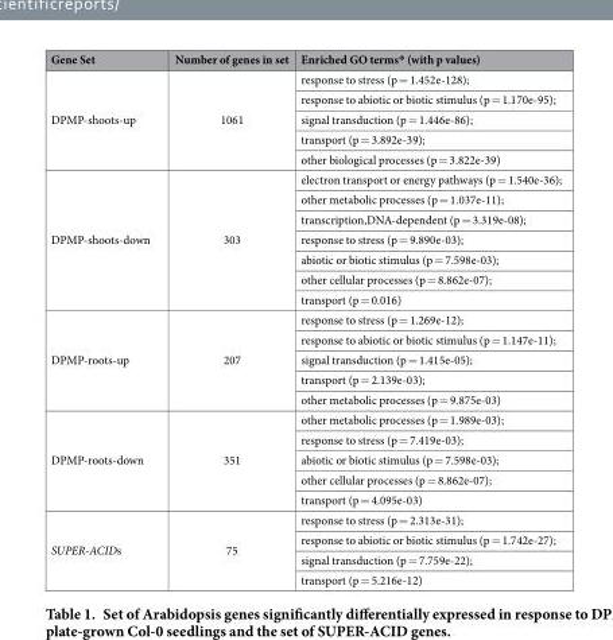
<table><thead><tr><td>Gene Set</td><td>Number of genes in set</td><td>Enriched GO terms* (with p values)</td></tr></thead><tbody><tr><td rowspan="5">DPMP-shoots-up</td><td rowspan="5">1061</td><td>response to stress (p = 1.452e-128);</td></tr><tr><td>response to abiotic or biotic stimulus (p = 1.170e-95);</td></tr><tr><td>signal transduction (p = 1.446e-86);</td></tr><tr><td>transport (p = 3.892e-39);</td></tr><tr><td>other biological processes (p = 3.822e-39)</td></tr><tr><td rowspan="7">DPMP-shoots-down</td><td rowspan="7">303</td><td>electron transport or energy pathways (p = 1.540e-36);</td></tr><tr><td>other metabolic processes (p = 1.037e-11);</td></tr><tr><td>transcription,DNA-dependent (p = 3.319e-08);</td></tr><tr><td>response to stress (p = 9.890e-03);</td></tr><tr><td>abiotic or biotic stimulus (p = 7.598e-03);</td></tr><tr><td>other cellular processes (p = 8.862e-07);</td></tr><tr><td>transport (p = 0.016)</td></tr><tr><td rowspan="5">DPMP-roots-up</td><td rowspan="5">207</td><td>response to stress (p = 1.269e-12);</td></tr><tr><td>response to abiotic or biotic stimulus (p = 1.147e-11);</td></tr><tr><td>signal transduction (p = 1.415e-05);</td></tr><tr><td>transport (p = 2.139e-03);</td></tr><tr><td>other metabolic processes (p = 9.875e-03)</td></tr><tr><td rowspan="5">DPMP-roots-down</td><td rowspan="5">351</td><td>other metabolic processes (p = 1.989e-03);</td></tr><tr><td>response to stress (p = 7.419e-03);</td></tr><tr><td>abiotic or biotic stimulus (p = 7.598e-03);</td></tr><tr><td>other cellular processes (p = 8.862e-07);</td></tr><tr><td>transport (p = 4.095e-03)</td></tr><tr><td rowspan="4">SUPER-ACIDs</td><td rowspan="4">75</td><td>response to stress (p = 2.313e-31);</td></tr><tr><td>response to abiotic or biotic stimulus (p = 1.742e-27);</td></tr><tr><td>signal transduction (p = 7.759e-22);</td></tr><tr><td>transport (p = 5.216e-12)</td></tr></tbody></table>